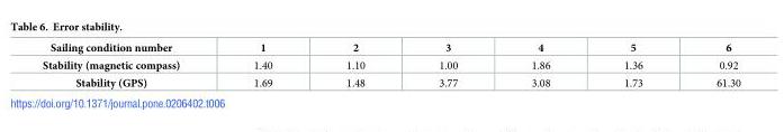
<table><thead><tr><td>Sailing condition number</td><td>1</td><td>2</td><td>3</td><td>4</td><td>5</td><td>6</td></tr></thead><tbody><tr><td>Stability (magnetic compass)</td><td>1.40</td><td>1.10</td><td>1.00</td><td>1.86</td><td>1.36</td><td>0.92</td></tr><tr><td>Stability (GPS)</td><td>1.69</td><td>1.48</td><td>3.77</td><td>3.08</td><td>1.73</td><td>61.30</td></tr></tbody></table>